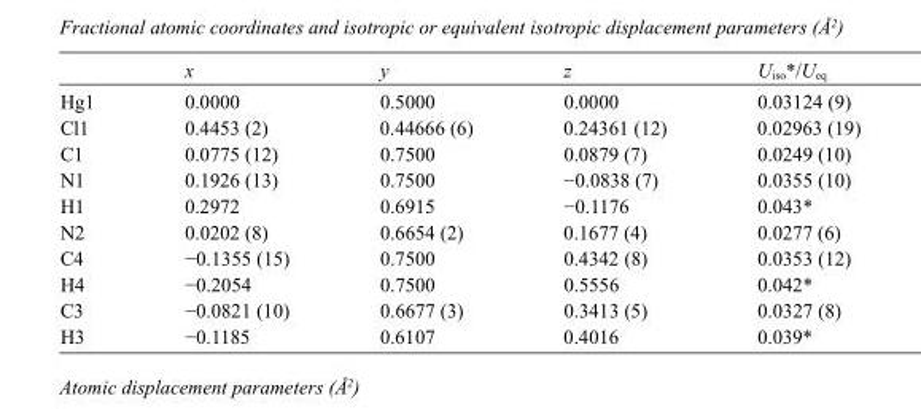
<table><thead><tr><td></td><td>x</td><td>y</td><td>z</td><td>U<sub>iso</sub>*/U<sub>eq</sub></td></tr></thead><tbody><tr><td>Hg1</td><td>0.0000</td><td>0.5000</td><td>0.0000</td><td>0.03124 (9)</td></tr><tr><td>Cl1</td><td>0.4453 (2)</td><td>0.44666 (6)</td><td>0.24361 (12)</td><td>0.02963 (19)</td></tr><tr><td>C1</td><td>0.0775 (12)</td><td>0.7500</td><td>0.0879 (7)</td><td>0.0249 (10)</td></tr><tr><td>N1</td><td>0.1926 (13)</td><td>0.7500</td><td>−0.0838 (7)</td><td>0.0355 (10)</td></tr><tr><td>H1</td><td>0.2972</td><td>0.6915</td><td>−0.1176</td><td>0.043*</td></tr><tr><td>N2</td><td>0.0202 (8)</td><td>0.6654 (2)</td><td>0.1677 (4)</td><td>0.0277 (6)</td></tr><tr><td>C4</td><td>−0.1355 (15)</td><td>0.7500</td><td>0.4342 (8)</td><td>0.0353 (12)</td></tr><tr><td>H4</td><td>−0.2054</td><td>0.7500</td><td>0.5556</td><td>0.042*</td></tr><tr><td>C3</td><td>−0.0821 (10)</td><td>0.6677 (3)</td><td>0.3413 (5)</td><td>0.0327 (8)</td></tr><tr><td>H3</td><td>−0.1185</td><td>0.6107</td><td>0.4016</td><td>0.039*</td></tr></tbody></table>